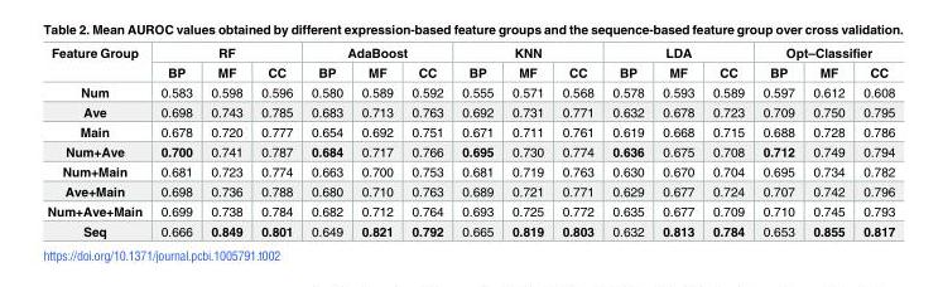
<table><thead><tr><td rowspan="2">Feature Group</td><td colspan="3">RF</td><td colspan="3">AdaBoost</td><td colspan="3">KNN</td><td colspan="3">LDA</td><td colspan="3">Opt–Classifier</td></tr><tr><td>BP</td><td>MF</td><td>CC</td><td>BP</td><td>MF</td><td>CC</td><td>BP</td><td>MF</td><td>CC</td><td>BP</td><td>MF</td><td>CC</td><td>BP</td><td>MF</td><td>CC</td></tr></thead><tbody><tr><td>Num</td><td>0.583</td><td>0.598</td><td>0.596</td><td>0.580</td><td>0.589</td><td>0.592</td><td>0.555</td><td>0.571</td><td>0.568</td><td>0.578</td><td>0.593</td><td>0.589</td><td>0.597</td><td>0.612</td><td>0.608</td></tr><tr><td>Ave</td><td>0.698</td><td>0.743</td><td>0.785</td><td>0.683</td><td>0.713</td><td>0.763</td><td>0.692</td><td>0.731</td><td>0.771</td><td>0.632</td><td>0.678</td><td>0.723</td><td>0.709</td><td>0.750</td><td>0.795</td></tr><tr><td>Main</td><td>0.678</td><td>0.720</td><td>0.777</td><td>0.654</td><td>0.692</td><td>0.751</td><td>0.671</td><td>0.711</td><td>0.761</td><td>0.619</td><td>0.668</td><td>0.715</td><td>0.688</td><td>0.728</td><td>0.786</td></tr><tr><td>Num+Ave</td><td>0.700</td><td>0.741</td><td>0.787</td><td>0.684</td><td>0.717</td><td>0.766</td><td>0.695</td><td>0.730</td><td>0.774</td><td>0.636</td><td>0.675</td><td>0.708</td><td>0.712</td><td>0.749</td><td>0.794</td></tr><tr><td>Num+Main</td><td>0.681</td><td>0.723</td><td>0.774</td><td>0.663</td><td>0.700</td><td>0.753</td><td>0.681</td><td>0.719</td><td>0.763</td><td>0.630</td><td>0.670</td><td>0.704</td><td>0.695</td><td>0.734</td><td>0.782</td></tr><tr><td>Ave+Main</td><td>0.698</td><td>0.736</td><td>0.788</td><td>0.680</td><td>0.710</td><td>0.763</td><td>0.689</td><td>0.721</td><td>0.771</td><td>0.629</td><td>0.677</td><td>0.724</td><td>0.707</td><td>0.742</td><td>0.796</td></tr><tr><td>Num+Ave+Main</td><td>0.699</td><td>0.738</td><td>0.784</td><td>0.682</td><td>0.712</td><td>0.764</td><td>0.693</td><td>0.725</td><td>0.772</td><td>0.635</td><td>0.677</td><td>0.709</td><td>0.710</td><td>0.745</td><td>0.793</td></tr><tr><td>Seq</td><td>0.666</td><td>0.849</td><td>0.801</td><td>0.649</td><td>0.821</td><td>0.792</td><td>0.665</td><td>0.819</td><td>0.803</td><td>0.632</td><td>0.813</td><td>0.784</td><td>0.653</td><td>0.855</td><td>0.817</td></tr></tbody></table>